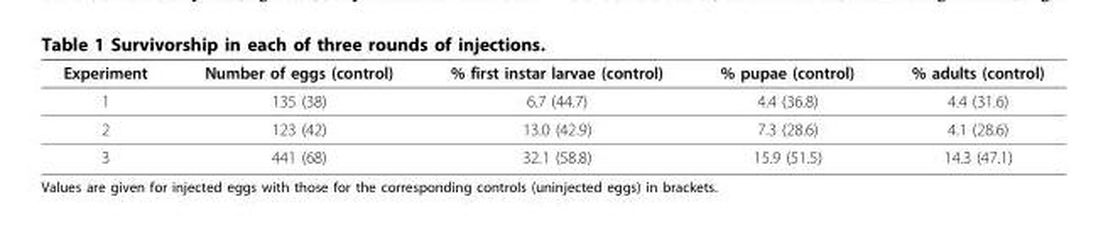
<table><thead><tr><td>Experiment</td><td>Number of eggs (control)</td><td>% first instar larvae (control)</td><td>% pupae (control)</td><td>% adults (control)</td></tr></thead><tbody><tr><td>1</td><td>135 (38)</td><td>6.7 (44.7)</td><td>4.4 (36.8)</td><td>4.4 (31.6)</td></tr><tr><td>2</td><td>123 (42)</td><td>13.0 (42.9)</td><td>7.3 (28.6)</td><td>4.1 (28.6)</td></tr><tr><td>3</td><td>441 (68)</td><td>32.1 (58.8)</td><td>15.9 (51.5)</td><td>14.3 (47.1)</td></tr></tbody></table>